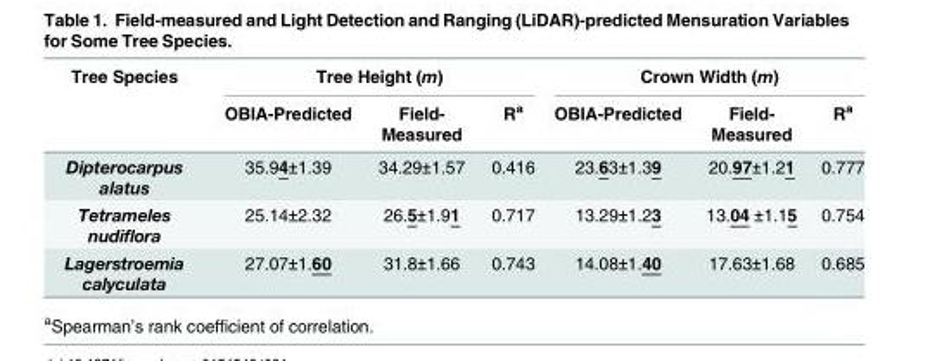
<table><thead><tr><td rowspan="2">Tree Species</td><td colspan="3">Tree Height (m)</td><td colspan="3">Crown Width (m)</td></tr><tr><td>OBIA-Predicted</td><td>Field- Measured</td><td>R<sup>a</sup></td><td>OBIA-Predicted</td><td>Field- Measured</td><td>R<sup>a</sup></td></tr></thead><tbody><tr><td>Dipterocarpus alatus</td><td>35.94±1.39</td><td>34.29±1.57</td><td>0.416</td><td>23.63±1.39</td><td>20.97±1.21</td><td>0.777</td></tr><tr><td>Tetrameles nudiflora</td><td>25.14±2.32</td><td>26.5±1.91</td><td>0.717</td><td>13.29±1.23</td><td>13.04 ±1.15</td><td>0.754</td></tr><tr><td>Lagerstroemia calyculata</td><td>27.07±1.60</td><td>31.8±1.66</td><td>0.743</td><td>14.08±1.40</td><td>17.63±1.68</td><td>0.685</td></tr></tbody></table>